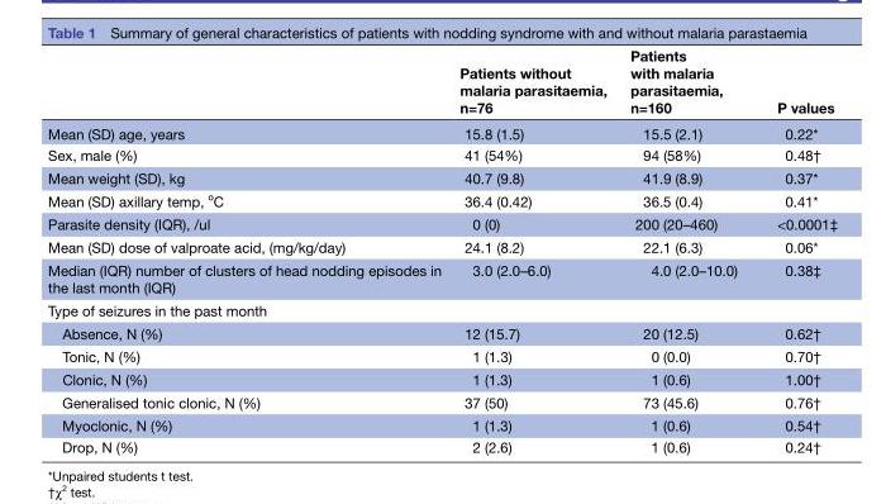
<table><thead><tr><td></td><td>Patients without malaria parasitaemia, n=76</td><td>Patients with malaria parasitaemia, n=160</td><td>P values</td></tr></thead><tbody><tr><td>Mean (SD) age, years</td><td>15.8 (1.5)</td><td>15.5 (2.1)</td><td>0.22*</td></tr><tr><td>Sex, male (%)</td><td>41 (54%)</td><td>94 (58%)</td><td>0.48†</td></tr><tr><td>Mean weight (SD), kg</td><td>40.7 (9.8)</td><td>41.9 (8.9)</td><td>0.37*</td></tr><tr><td>Mean (SD) axillary temp, <sup>o</sup>C</td><td>36.4 (0.42)</td><td>36.5 (0.4)</td><td>0.41*</td></tr><tr><td>Parasite density (IQR), /ul</td><td>0 (0)</td><td>200 (20–460)</td><td>&lt;0.0001‡</td></tr><tr><td>Mean (SD) dose of valproate acid, (mg/kg/day)</td><td>24.1 (8.2)</td><td>22.1 (6.3)</td><td>0.06*</td></tr><tr><td>Median (IQR) number of clusters of head nodding episodes in the last month (IQR)</td><td>3.0 (2.0–6.0)</td><td>4.0 (2.0–10.0)</td><td>0.38‡</td></tr><tr><td colspan="4">Type of seizures in the past month</td></tr><tr><td>Absence, N (%)</td><td>12 (15.7)</td><td>20 (12.5)</td><td>0.62†</td></tr><tr><td>Tonic, N (%)</td><td>1 (1.3)</td><td>0 (0.0)</td><td>0.70†</td></tr><tr><td>Clonic, N (%)</td><td>1 (1.3)</td><td>1 (0.6)</td><td>1.00†</td></tr><tr><td>Generalised tonic clonic, N (%)</td><td>37 (50)</td><td>73 (45.6)</td><td>0.76†</td></tr><tr><td>Myoclonic, N (%)</td><td>1 (1.3)</td><td>1 (0.6)</td><td>0.54†</td></tr><tr><td>Drop, N (%)</td><td>2 (2.6)</td><td>1 (0.6)</td><td>0.24†</td></tr></tbody></table>